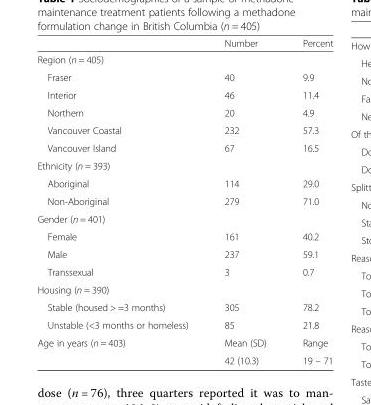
<table><thead><tr><td></td><td>Number</td><td>Percent</td></tr></thead><tbody><tr><td colspan="3">Region (n = 405)</td></tr><tr><td>Fraser</td><td>40</td><td>9.9</td></tr><tr><td>Interior</td><td>46</td><td>11.4</td></tr><tr><td>Northern</td><td>20</td><td>4.9</td></tr><tr><td>Vancouver Coastal</td><td>232</td><td>57.3</td></tr><tr><td>Vancouver Island</td><td>67</td><td>16.5</td></tr><tr><td colspan="3">Ethnicity (n = 393)</td></tr><tr><td>Aboriginal</td><td>114</td><td>29.0</td></tr><tr><td>Non-Aboriginal</td><td>279</td><td>71.0</td></tr><tr><td colspan="3">Gender (n = 401)</td></tr><tr><td>Female</td><td>161</td><td>40.2</td></tr><tr><td>Male</td><td>237</td><td>59.1</td></tr><tr><td>Transsexual</td><td>3</td><td>0.7</td></tr><tr><td colspan="3">Housing (n = 390)</td></tr><tr><td>Stable (housed &gt; =3 months)</td><td>305</td><td>78.2</td></tr><tr><td>Unstable (&lt;3 months or homeless)</td><td>85</td><td>21.8</td></tr><tr><td rowspan="2">Age in years (n = 403)</td><td>Mean (SD)</td><td>Range</td></tr><tr><td>42 (10.3)</td><td>19 – 71</td></tr></tbody></table>